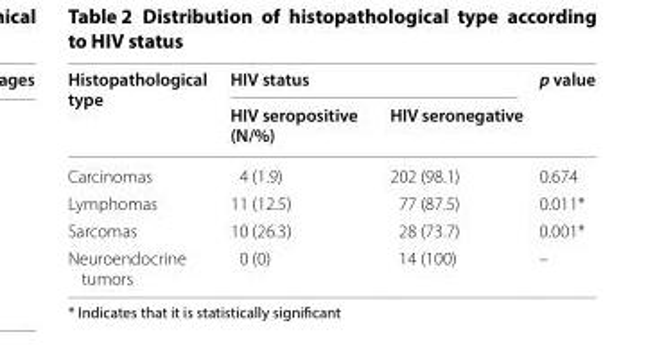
<table><thead><tr><td rowspan="2">Histopathological type</td><td colspan="2">HIV status</td><td rowspan="2">p value</td></tr><tr><td>HIV seropositive (N/%)</td><td>HIV seronegative</td></tr></thead><tbody><tr><td>Carcinomas</td><td>4 (1.9)</td><td>202 (98.1)</td><td>0.674</td></tr><tr><td>Lymphomas</td><td>11 (12.5)</td><td>77 (87.5)</td><td>0.011*</td></tr><tr><td>Sarcomas</td><td>10 (26.3)</td><td>28 (73.7)</td><td>0.001*</td></tr><tr><td>Neuroendocrine tumors</td><td>0 (0)</td><td>14 (100)</td><td>–</td></tr></tbody></table>